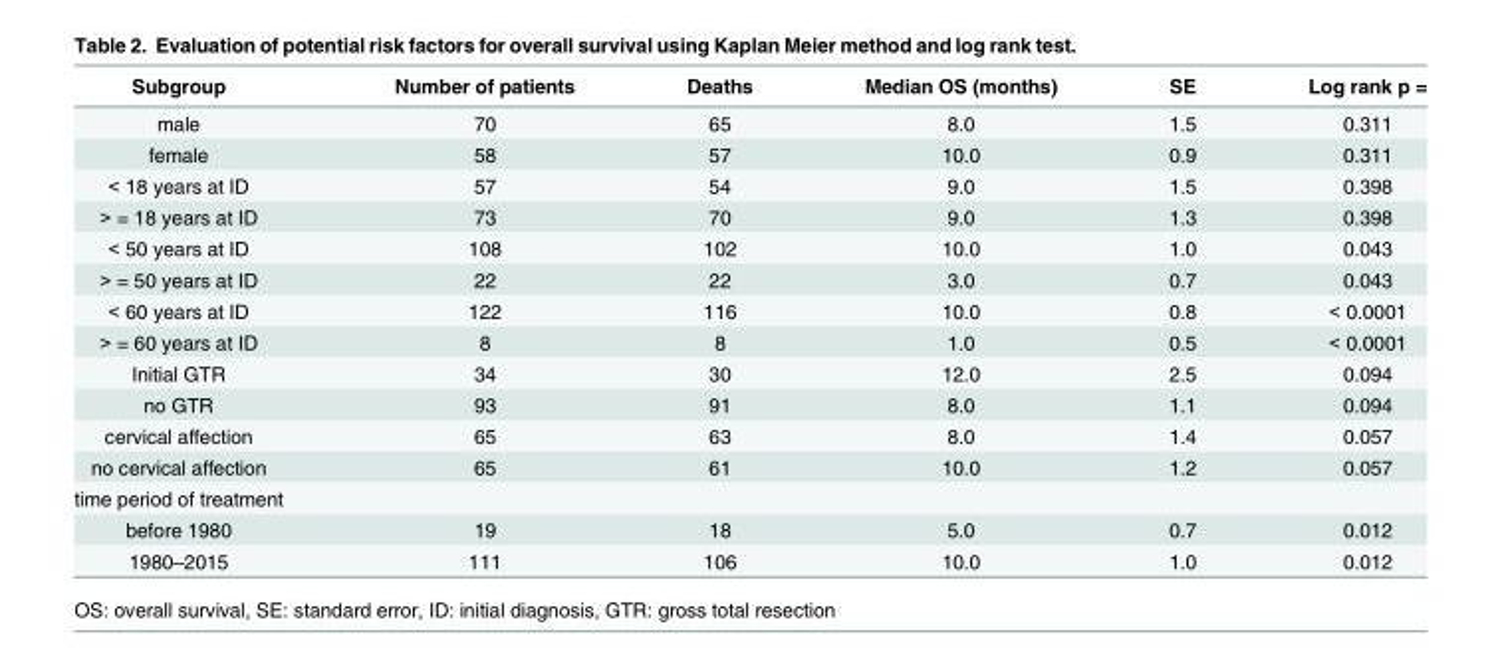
<table><thead><tr><td>Subgroup</td><td>Number of patients</td><td>Deaths</td><td>Median OS (months)</td><td>SE</td><td>Log rank p =</td></tr></thead><tbody><tr><td>male</td><td>70</td><td>65</td><td>8.0</td><td>1.5</td><td>0.311</td></tr><tr><td>female</td><td>58</td><td>57</td><td>10.0</td><td>0.9</td><td>0.311</td></tr><tr><td>&lt; 18 years at ID</td><td>57</td><td>54</td><td>9.0</td><td>1.5</td><td>0.398</td></tr><tr><td>&gt; = 18 years at ID</td><td>73</td><td>70</td><td>9.0</td><td>1.3</td><td>0.398</td></tr><tr><td>&lt; 50 years at ID</td><td>108</td><td>102</td><td>10.0</td><td>1.0</td><td>0.043</td></tr><tr><td>&gt; = 50 years at ID</td><td>22</td><td>22</td><td>3.0</td><td>0.7</td><td>0.043</td></tr><tr><td>&lt; 60 years at ID</td><td>122</td><td>116</td><td>10.0</td><td>0.8</td><td>&lt; 0.0001</td></tr><tr><td>&gt; = 60 years at ID</td><td>8</td><td>8</td><td>1.0</td><td>0.5</td><td>&lt; 0.0001</td></tr><tr><td>Initial GTR</td><td>34</td><td>30</td><td>12.0</td><td>2.5</td><td>0.094</td></tr><tr><td>no GTR</td><td>93</td><td>91</td><td>8.0</td><td>1.1</td><td>0.094</td></tr><tr><td>cervical affection</td><td>65</td><td>63</td><td>8.0</td><td>1.4</td><td>0.057</td></tr><tr><td>no cervical affection</td><td>65</td><td>61</td><td>10.0</td><td>1.2</td><td>0.057</td></tr><tr><td colspan="6">time period of treatment</td></tr><tr><td>before 1980</td><td>19</td><td>18</td><td>5.0</td><td>0.7</td><td>0.012</td></tr><tr><td>1980–2015</td><td>111</td><td>106</td><td>10.0</td><td>1.0</td><td>0.012</td></tr></tbody></table>